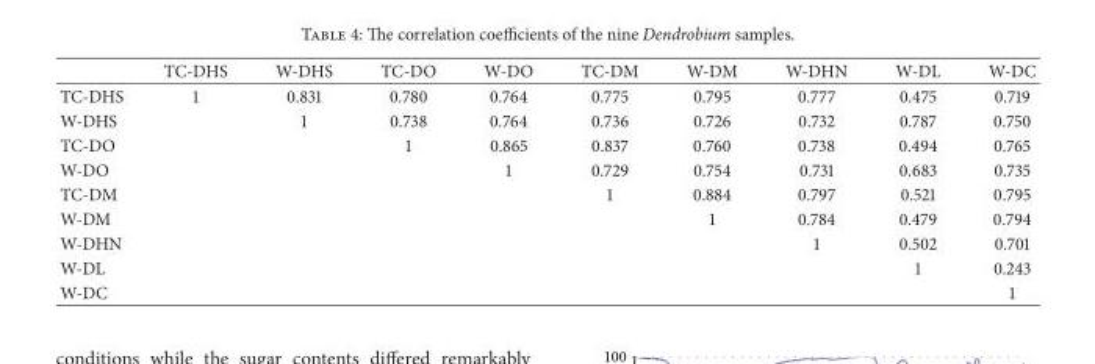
<table><thead><tr><td></td><td>TC-DHS</td><td>W-DHS</td><td>TC-DO</td><td>W-DO</td><td>TC-DM</td><td>W-DM</td><td>W-DHN</td><td>W-DL</td><td>W-DC</td></tr></thead><tbody><tr><td>TC-DHS</td><td>1</td><td>0.831</td><td>0.780</td><td>0.764</td><td>0.775</td><td>0.795</td><td>0.777</td><td>0.475</td><td>0.719</td></tr><tr><td>W-DHS</td><td></td><td>1</td><td>0.738</td><td>0.764</td><td>0.736</td><td>0.726</td><td>0.732</td><td>0.787</td><td>0.750</td></tr><tr><td>TC-DO</td><td></td><td></td><td>1</td><td>0.865</td><td>0.837</td><td>0.760</td><td>0.738</td><td>0.494</td><td>0.765</td></tr><tr><td>W-DO</td><td></td><td></td><td></td><td>1</td><td>0.729</td><td>0.754</td><td>0.731</td><td>0.683</td><td>0.735</td></tr><tr><td>TC-DM</td><td></td><td></td><td></td><td></td><td>1</td><td>0.884</td><td>0.797</td><td>0.521</td><td>0.795</td></tr><tr><td>W-DM</td><td></td><td></td><td></td><td></td><td></td><td>1</td><td>0.784</td><td>0.479</td><td>0.794</td></tr><tr><td>W-DHN</td><td></td><td></td><td></td><td></td><td></td><td></td><td>1</td><td>0.502</td><td>0.701</td></tr><tr><td>W-DL</td><td></td><td></td><td></td><td></td><td></td><td></td><td></td><td>1</td><td>0.243</td></tr><tr><td>W-DC</td><td></td><td></td><td></td><td></td><td></td><td></td><td></td><td></td><td>1</td></tr></tbody></table>